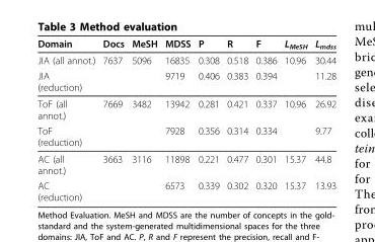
<table><thead><tr><td>Domain</td><td>Docs</td><td>MeSH</td><td>MDSS</td><td>P</td><td>R</td><td>F</td><td>L<sub>MeSH</sub></td><td>L<sub>mdss</sub></td></tr></thead><tbody><tr><td>JIA (all annot.)</td><td>7637</td><td>5096</td><td>16835</td><td>0.308</td><td>0.518</td><td>0.386</td><td>10.96</td><td>30.44</td></tr><tr><td>JIA (reduction)</td><td></td><td></td><td>9719</td><td>0.406</td><td>0.383</td><td>0.394</td><td></td><td>11.28</td></tr><tr><td>ToF (all annot.)</td><td>7669</td><td>3482</td><td>13942</td><td>0.281</td><td>0.421</td><td>0.337</td><td>10.96</td><td>26.92</td></tr><tr><td>ToF (reduction)</td><td></td><td></td><td>7928</td><td>0.356</td><td>0.314</td><td>0.334</td><td></td><td>9.77</td></tr><tr><td>AC (all annot.)</td><td>3663</td><td>3116</td><td>11898</td><td>0.221</td><td>0.477</td><td>0.301</td><td>15.37</td><td>44.8</td></tr><tr><td>AC (reduction)</td><td></td><td></td><td>6573</td><td>0.339</td><td>0.302</td><td>0.320</td><td>15.37</td><td>13.93</td></tr></tbody></table>